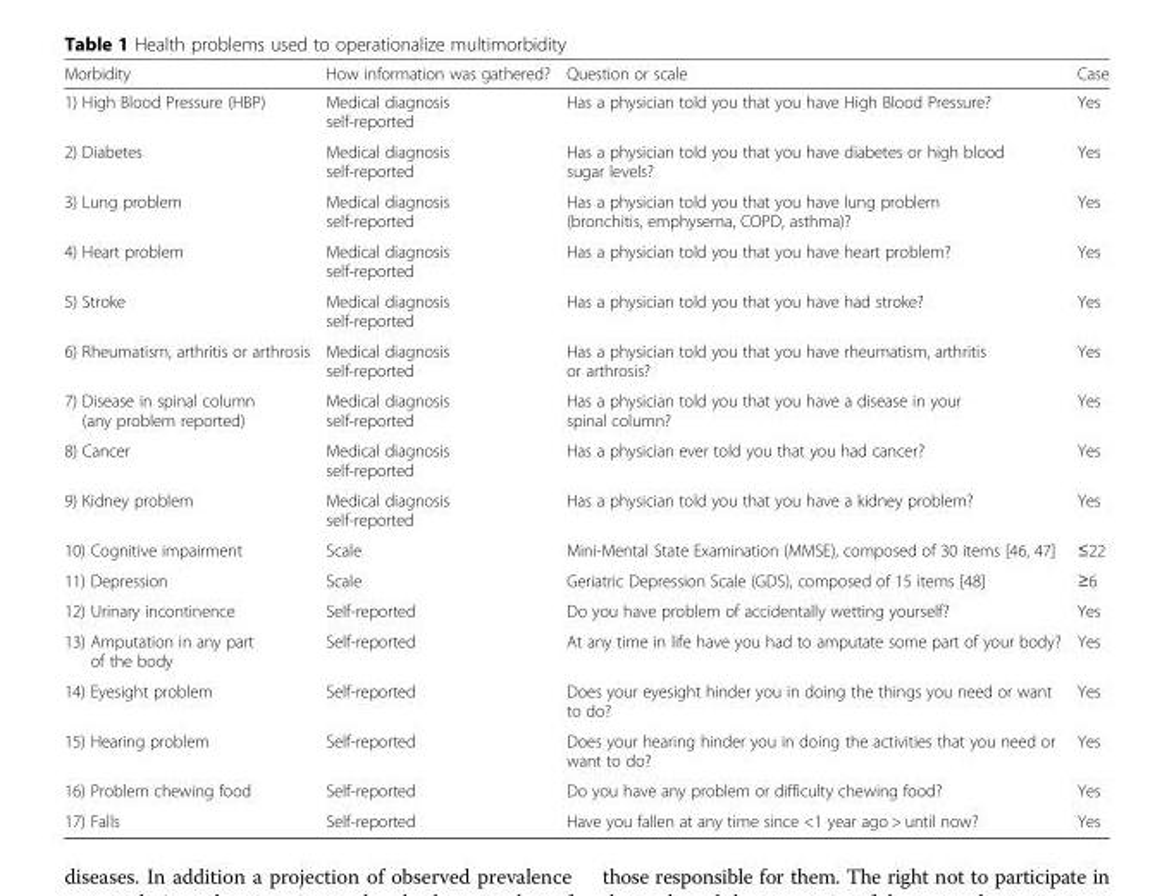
<table><thead><tr><td>Morbidity</td><td>How information was gathered?</td><td>Question or scale</td><td>Case</td></tr></thead><tbody><tr><td>1) High Blood Pressure (HBP)</td><td>Medical diagnosis self-reported</td><td>Has a physician told you that you have High Blood Pressure?</td><td>Yes</td></tr><tr><td>2) Diabetes</td><td>Medical diagnosis self-reported</td><td>Has a physician told you that you have diabetes or high blood sugar levels?</td><td>Yes</td></tr><tr><td>3) Lung problem</td><td>Medical diagnosis self-reported</td><td>Has a physician told you that you have lung problem (bronchitis, emphysema, COPD, asthma)?</td><td>Yes</td></tr><tr><td>4) Heart problem</td><td>Medical diagnosis self-reported</td><td>Has a physician told you that you have heart problem?</td><td>Yes</td></tr><tr><td>5) Stroke</td><td>Medical diagnosis self-reported</td><td>Has a physician told you that you have had stroke?</td><td>Yes</td></tr><tr><td>6) Rheumatism, arthritis or arthrosis</td><td>Medical diagnosis self-reported</td><td>Has a physician told you that you have rheumatism, arthritis or arthrosis?</td><td>Yes</td></tr><tr><td>7) Disease in spinal column (any problem reported)</td><td>Medical diagnosis self-reported</td><td>Has a physician told you that you have a disease in your spinal column?</td><td>Yes</td></tr><tr><td>8) Cancer</td><td>Medical diagnosis self-reported</td><td>Has a physician ever told you that you had cancer?</td><td>Yes</td></tr><tr><td>9) Kidney problem</td><td>Medical diagnosis self-reported</td><td>Has a physician told you that you have a kidney problem?</td><td>Yes</td></tr><tr><td>10) Cognitive impairment</td><td>Scale</td><td>Mini-Mental State Examination (MMSE), composed of 30 items [46, 47]</td><td>≤22</td></tr><tr><td>11) Depression</td><td>Scale</td><td>Geriatric Depression Scale (GDS), composed of 15 items [48]</td><td>≥6</td></tr><tr><td>12) Urinary incontinence</td><td>Self-reported</td><td>Do you have problem of accidentally wetting yourself?</td><td>Yes</td></tr><tr><td>13) Amputation in any part of the body</td><td>Self-reported</td><td>At any time in life have you had to amputate some part of your body?</td><td>Yes</td></tr><tr><td>14) Eyesight problem</td><td>Self-reported</td><td>Does your eyesight hinder you in doing the things you need or want to do?</td><td>Yes</td></tr><tr><td>15) Hearing problem</td><td>Self-reported</td><td>Does your hearing hinder you in doing the activities that you need or want to do?</td><td>Yes</td></tr><tr><td>16) Problem chewing food</td><td>Self-reported</td><td>Do you have any problem or difficulty chewing food?</td><td>Yes</td></tr><tr><td>17) Falls</td><td>Self-reported</td><td>Have you fallen at any time since &lt;1 year ago &gt; until now?</td><td>Yes</td></tr></tbody></table>